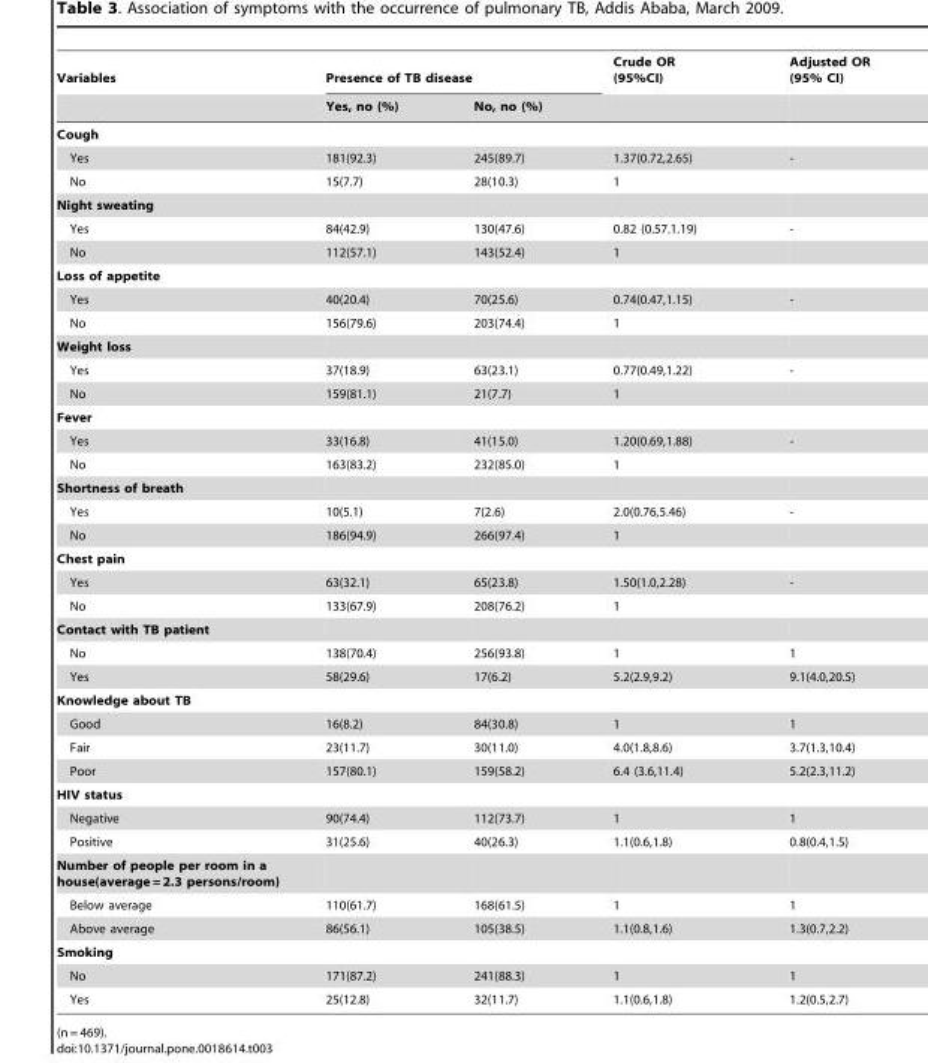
<table><thead><tr><td rowspan="2">Variables</td><td colspan="2">Presence of TB disease</td><td rowspan="2">Crude OR (95%CI)</td><td rowspan="2">Adjusted OR (95% CI)</td></tr><tr><td>Yes, no (%)</td><td>No, no (%)</td></tr></thead><tbody><tr><td colspan="5">Cough</td></tr><tr><td>Yes</td><td>181(92.3)</td><td>245(89.7)</td><td>1.37(0.72,2.65)</td><td>-</td></tr><tr><td>No</td><td>15(7.7)</td><td>28(10.3)</td><td>1</td><td></td></tr><tr><td colspan="5">Night sweating</td></tr><tr><td>Yes</td><td>84(42.9)</td><td>130(47.6)</td><td>0.82 (0.57.1.19)</td><td>-</td></tr><tr><td>No</td><td>112(57.1)</td><td>143(52.4)</td><td>1</td><td></td></tr><tr><td colspan="5">Loss of appetite</td></tr><tr><td>Yes</td><td>40(20.4)</td><td>70(25.6)</td><td>0.74(0.47,1.15)</td><td>-</td></tr><tr><td>No</td><td>156(79.6)</td><td>203(74.4)</td><td>1</td><td></td></tr><tr><td colspan="5">Weight loss</td></tr><tr><td>Yes</td><td>37(18.9)</td><td>63(23.1)</td><td>0.77(0.49,1.22)</td><td>-</td></tr><tr><td>No</td><td>159(81.1)</td><td>21(7.7)</td><td>1</td><td></td></tr><tr><td colspan="5">Fever</td></tr><tr><td>Yes</td><td>33(16.8)</td><td>41(15.0)</td><td>1.20(0.69,1.88)</td><td>-</td></tr><tr><td>No</td><td>163(83.2)</td><td>232(85.0)</td><td>1</td><td></td></tr><tr><td colspan="5">Shortness of breath</td></tr><tr><td>Yes</td><td>10(5.1)</td><td>7(2.6)</td><td>2.0(0.76,5.46)</td><td>-</td></tr><tr><td>No</td><td>186(94.9)</td><td>266(97.4)</td><td>1</td><td></td></tr><tr><td colspan="5">Chest pain</td></tr><tr><td>Yes</td><td>63(32.1)</td><td>65(23.8)</td><td>1.50(1.0,2.28)</td><td>-</td></tr><tr><td>No</td><td>133(67.9)</td><td>208(76.2)</td><td>1</td><td></td></tr><tr><td colspan="5">Contact with TB patient</td></tr><tr><td>No</td><td>138(70.4)</td><td>256(93.8)</td><td>1</td><td>1</td></tr><tr><td>Yes</td><td>58(29.6)</td><td>17(6.2)</td><td>5.2(2.9,9.2)</td><td>9.1(4.0,20.5)</td></tr><tr><td colspan="5">Knowledge about TB</td></tr><tr><td>Good</td><td>16(8.2)</td><td>84(30.8)</td><td>1</td><td>1</td></tr><tr><td>Fair</td><td>23(11.7)</td><td>30(11.0)</td><td>4.0(1.8,8.6)</td><td>3.7(1.3,10.4)</td></tr><tr><td>Poor</td><td>157(80.1)</td><td>159(58.2)</td><td>6.4 (3.6,11.4)</td><td>5.2(2.3,11.2)</td></tr><tr><td colspan="5">HIV status</td></tr><tr><td>Negative</td><td>90(74.4)</td><td>112(73.7)</td><td>1</td><td>1</td></tr><tr><td>Positive</td><td>31(25.6)</td><td>40(26.3)</td><td>1.1(0.6,1.8)</td><td>0.8(0.4,1.5)</td></tr><tr><td colspan="5">Number of people per room in a house(average = 2.3 persons/room)</td></tr><tr><td>Below average</td><td>110(61.7)</td><td>168(61.5)</td><td>1</td><td>1</td></tr><tr><td>Above average</td><td>86(56.1)</td><td>105(38.5)</td><td>1.1(0.8,1.6)</td><td>1.3(0.7,2.2)</td></tr><tr><td colspan="5">Smoking</td></tr><tr><td>No</td><td>171(87.2)</td><td>241(88.3)</td><td>1</td><td>1</td></tr><tr><td>Yes</td><td>25(12.8)</td><td>32(11.7)</td><td>1.1(0.6,1.8)</td><td>1.2(0.5,2.7)</td></tr></tbody></table>